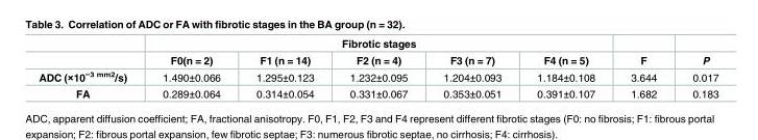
<table><thead><tr><td rowspan="2"></td><td colspan="5">Fibrotic stages</td><td rowspan="2">F</td><td rowspan="2">P</td></tr><tr><td>F0(n = 2)</td><td>F1 (n = 14)</td><td>F2 (n = 4)</td><td>F3 (n = 7)</td><td>F4 (n = 5)</td></tr></thead><tbody><tr><td>ADC (×10<sup>−3 mm2</sup>/s)</td><td>1.490±0.066</td><td>1.295±0.123</td><td>1.232±0.095</td><td>1.204±0.093</td><td>1.184±0.108</td><td>3.644</td><td>0.017</td></tr><tr><td>FA</td><td>0.289±0.064</td><td>0.314±0.054</td><td>0.331±0.067</td><td>0.353±0.051</td><td>0.391±0.107</td><td>1.682</td><td>0.183</td></tr></tbody></table>